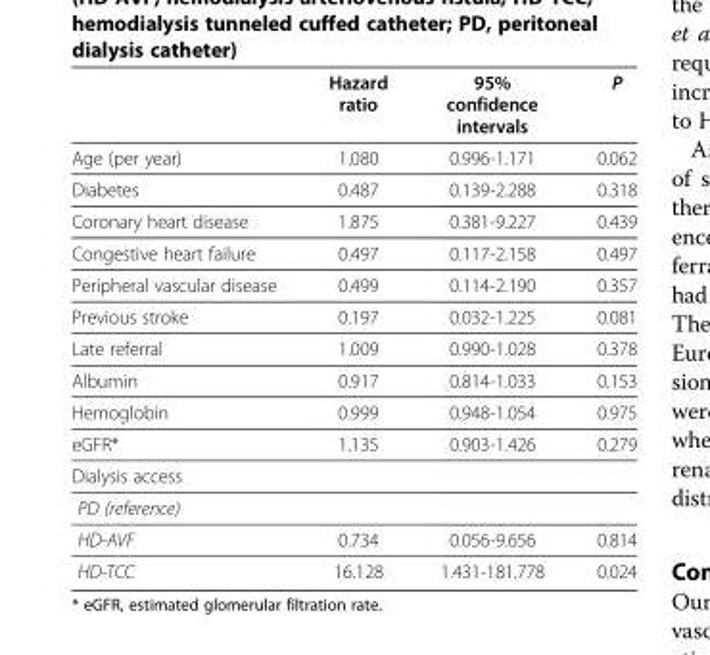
<table><thead><tr><td></td><td>Hazard ratio</td><td>95% confidence intervals</td><td>P</td></tr></thead><tbody><tr><td>Age (per year)</td><td>1.080</td><td>0.996-1.171</td><td>0.062</td></tr><tr><td>Diabetes</td><td>0.487</td><td>0.139-2.288</td><td>0.318</td></tr><tr><td>Coronary heart disease</td><td>1.875</td><td>0.381-9.227</td><td>0.439</td></tr><tr><td>Congestive heart failure</td><td>0.497</td><td>0.117-2.158</td><td>0.497</td></tr><tr><td>Peripheral vascular disease</td><td>0.499</td><td>0.114-2.190</td><td>0.357</td></tr><tr><td>Previous stroke</td><td>0.197</td><td>0.032-1.225</td><td>0.081</td></tr><tr><td>Late referral</td><td>1.009</td><td>0.990-1.028</td><td>0.378</td></tr><tr><td>Albumin</td><td>0.917</td><td>0.814-1.033</td><td>0.153</td></tr><tr><td>Hemoglobin</td><td>0.999</td><td>0.948-1.054</td><td>0.975</td></tr><tr><td>eGFR*</td><td>1.135</td><td>0.903-1.426</td><td>0.279</td></tr><tr><td colspan="4">Dialysis access</td></tr><tr><td colspan="4">PD (reference)</td></tr><tr><td>HD-AVF</td><td>0.734</td><td>0.056-9.656</td><td>0.814</td></tr><tr><td>HD-TCC</td><td>16.128</td><td>1.431-181.778</td><td>0.024</td></tr></tbody></table>